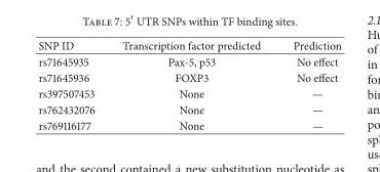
<table><thead><tr><td>SNP ID</td><td>Transcription factor predicted</td><td>Prediction</td></tr></thead><tbody><tr><td>rs71645935</td><td>Pax-5, p53</td><td>No effect</td></tr><tr><td>rs71645936</td><td>FOXP3</td><td>No effect</td></tr><tr><td>rs397507453</td><td>None</td><td>—</td></tr><tr><td>rs762432076</td><td>None</td><td>—</td></tr><tr><td>rs769116177</td><td>None</td><td>—</td></tr></tbody></table>